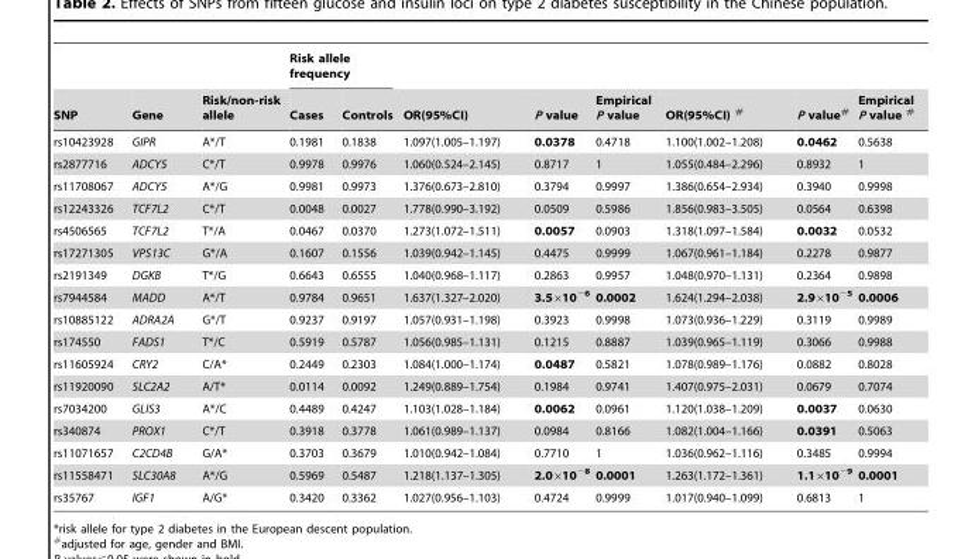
<table><thead><tr><td rowspan="2">SNP</td><td rowspan="2">Gene</td><td rowspan="2">Risk/non-risk allele</td><td colspan="2">Risk allele frequency</td><td rowspan="2">OR(95%CI)</td><td rowspan="2">P value</td><td rowspan="2">Empirical P value</td><td rowspan="2">OR(95%CI) #</td><td rowspan="2">P value#</td><td rowspan="2">Empirical P value #</td></tr><tr><td>Cases</td><td>Controls</td></tr></thead><tbody><tr><td>rs10423928</td><td>GIPR</td><td>A*/T</td><td>0.1981</td><td>0.1838</td><td>1.097(1.005–1.197)</td><td>0.0378</td><td>0.4718</td><td>1.100(1.002–1.208)</td><td>0.0462</td><td>0.5638</td></tr><tr><td>rs2877716</td><td>ADCY5</td><td>C*/T</td><td>0.9978</td><td>0.9976</td><td>1.060(0.524–2.145)</td><td>0.8717</td><td>1</td><td>1.055(0.484–2.296)</td><td>0.8932</td><td>1</td></tr><tr><td>rs11708067</td><td>ADCY5</td><td>A*/G</td><td>0.9981</td><td>0.9973</td><td>1.376(0.673–2.810)</td><td>0.3794</td><td>0.9997</td><td>1.386(0.654–2.934)</td><td>0.3940</td><td>0.9998</td></tr><tr><td>rs12243326</td><td>TCF7L2</td><td>C*/T</td><td>0.0048</td><td>0.0027</td><td>1.778(0.990–3.192)</td><td>0.0509</td><td>0.5986</td><td>1.856(0.983–3.505)</td><td>0.0564</td><td>0.6398</td></tr><tr><td>rs4506565</td><td>TCF7L2</td><td>T*/A</td><td>0.0467</td><td>0.0370</td><td>1.273(1.072–1.511)</td><td>0.0057</td><td>0.0903</td><td>1.318(1.097–1.584)</td><td>0.0032</td><td>0.0532</td></tr><tr><td>rs17271305</td><td>VPS13C</td><td>G*/A</td><td>0.1607</td><td>0.1556</td><td>1.039(0.942–1.145)</td><td>0.4475</td><td>0.9999</td><td>1.067(0.961–1.184)</td><td>0.2278</td><td>0.9877</td></tr><tr><td>rs2191349</td><td>DGKB</td><td>T*/G</td><td>0.6643</td><td>0.6555</td><td>1.040(0.968–1.117)</td><td>0.2863</td><td>0.9957</td><td>1.048(0.970–1.131)</td><td>0.2364</td><td>0.9898</td></tr><tr><td>rs7944584</td><td>MADD</td><td>A*/T</td><td>0.9784</td><td>0.9651</td><td>1.637(1.327–2.020)</td><td>3.5×10<sup>−6</sup></td><td>0.0002</td><td>1.624(1.294–2.038)</td><td>2.9×10<sup>−5</sup></td><td>0.0006</td></tr><tr><td>rs10885122</td><td>ADRA2A</td><td>G*/T</td><td>0.9237</td><td>0.9197</td><td>1.057(0.931–1.198)</td><td>0.3923</td><td>0.9998</td><td>1.073(0.936–1.229)</td><td>0.3119</td><td>0.9989</td></tr><tr><td>rs174550</td><td>FADS1</td><td>T*/C</td><td>0.5919</td><td>0.5787</td><td>1.056(0.985–1.131)</td><td>0.1215</td><td>0.8887</td><td>1.039(0.965–1.119)</td><td>0.3066</td><td>0.9988</td></tr><tr><td>rs11605924</td><td>CRY2</td><td>C/A*</td><td>0.2449</td><td>0.2303</td><td>1.084(1.000–1.174)</td><td>0.0487</td><td>0.5821</td><td>1.078(0.989–1.176)</td><td>0.0882</td><td>0.8028</td></tr><tr><td>rs11920090</td><td>SLC2A2</td><td>A/T*</td><td>0.0114</td><td>0.0092</td><td>1.249(0.889–1.754)</td><td>0.1984</td><td>0.9741</td><td>1.407(0.975–2.031)</td><td>0.0679</td><td>0.7074</td></tr><tr><td>rs7034200</td><td>GLIS3</td><td>A*/C</td><td>0.4489</td><td>0.4247</td><td>1.103(1.028–1.184)</td><td>0.0062</td><td>0.0961</td><td>1.120(1.038–1.209)</td><td>0.0037</td><td>0.0630</td></tr><tr><td>rs340874</td><td>PROX1</td><td>C*/T</td><td>0.3918</td><td>0.3778</td><td>1.061(0.989–1.137)</td><td>0.0984</td><td>0.8166</td><td>1.082(1.004–1.166)</td><td>0.0391</td><td>0.5063</td></tr><tr><td>rs11071657</td><td>C2CD4B</td><td>G/A*</td><td>0.3703</td><td>0.3679</td><td>1.010(0.942–1.084)</td><td>0.7710</td><td>1</td><td>1.036(0.962–1.116)</td><td>0.3485</td><td>0.9994</td></tr><tr><td>rs11558471</td><td>SLC30A8</td><td>A*/G</td><td>0.5969</td><td>0.5487</td><td>1.218(1.137–1.305)</td><td>2.0×10<sup>−8</sup></td><td>0.0001</td><td>1.263(1.172–1.361)</td><td>1.1×10<sup>−9</sup></td><td>0.0001</td></tr><tr><td>rs35767</td><td>IGF1</td><td>A/G*</td><td>0.3420</td><td>0.3362</td><td>1.027(0.956–1.103)</td><td>0.4724</td><td>0.9999</td><td>1.017(0.940–1.099)</td><td>0.6813</td><td>1</td></tr></tbody></table>